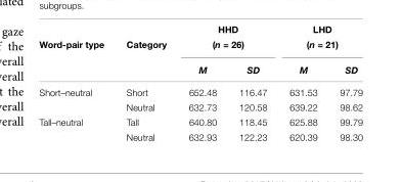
<table><thead><tr><td rowspan="2">Word-pair type</td><td rowspan="2">Category</td><td colspan="2">(n = 26)</td><td colspan="2">(n = 21)</td></tr><tr><td>M</td><td>SD</td><td>M</td><td>SD</td></tr></thead><tbody><tr><td rowspan="2">Short–neutral</td><td>Short</td><td>652.48</td><td>116.47</td><td>631.53</td><td>97.79</td></tr><tr><td>Neutral</td><td>632.73</td><td>120.58</td><td>639.22</td><td>98.62</td></tr><tr><td rowspan="2">Tall–neutral</td><td>Tall</td><td>640.80</td><td>118.45</td><td>625.88</td><td>99.79</td></tr><tr><td>Neutral</td><td>632.93</td><td>122.23</td><td>620.39</td><td>98.30</td></tr></tbody></table>